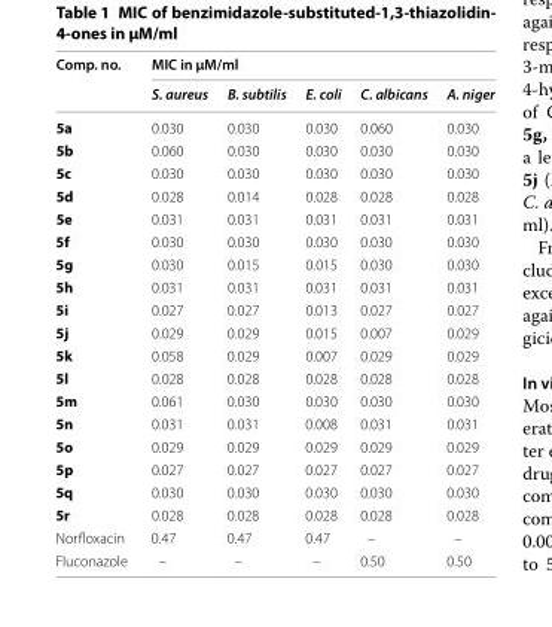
<table><thead><tr><td rowspan="2">Comp. no.</td><td colspan="5">MIC in µM/ml</td></tr><tr><td>S. aureus</td><td>B. subtilis</td><td>E. coli</td><td>C. albicans</td><td>A. niger</td></tr></thead><tbody><tr><td>5a</td><td>0.030</td><td>0.030</td><td>0.030</td><td>0.060</td><td>0.030</td></tr><tr><td>5b</td><td>0.060</td><td>0.030</td><td>0.030</td><td>0.030</td><td>0.030</td></tr><tr><td>5c</td><td>0.030</td><td>0.030</td><td>0.030</td><td>0.030</td><td>0.030</td></tr><tr><td>5d</td><td>0.028</td><td>0.014</td><td>0.028</td><td>0.028</td><td>0.028</td></tr><tr><td>5e</td><td>0.031</td><td>0.031</td><td>0.031</td><td>0.031</td><td>0.031</td></tr><tr><td>5f</td><td>0.030</td><td>0.030</td><td>0.030</td><td>0.030</td><td>0.030</td></tr><tr><td>5g</td><td>0.030</td><td>0.015</td><td>0.015</td><td>0.030</td><td>0.030</td></tr><tr><td>5h</td><td>0.031</td><td>0.031</td><td>0.031</td><td>0.031</td><td>0.031</td></tr><tr><td>5i</td><td>0.027</td><td>0.027</td><td>0.013</td><td>0.027</td><td>0.027</td></tr><tr><td>5j</td><td>0.029</td><td>0.029</td><td>0.015</td><td>0.007</td><td>0.029</td></tr><tr><td>5k</td><td>0.058</td><td>0.029</td><td>0.007</td><td>0.029</td><td>0.029</td></tr><tr><td>5l</td><td>0.028</td><td>0.028</td><td>0.028</td><td>0.028</td><td>0.028</td></tr><tr><td>5m</td><td>0.061</td><td>0.030</td><td>0.030</td><td>0.030</td><td>0.030</td></tr><tr><td>5n</td><td>0.031</td><td>0.031</td><td>0.008</td><td>0.031</td><td>0.031</td></tr><tr><td>5o</td><td>0.029</td><td>0.029</td><td>0.029</td><td>0.029</td><td>0.029</td></tr><tr><td>5p</td><td>0.027</td><td>0.027</td><td>0.027</td><td>0.027</td><td>0.027</td></tr><tr><td>5q</td><td>0.030</td><td>0.030</td><td>0.030</td><td>0.030</td><td>0.030</td></tr><tr><td>5r</td><td>0.028</td><td>0.028</td><td>0.028</td><td>0.028</td><td>0.028</td></tr><tr><td>Norfloxacin</td><td>0.47</td><td>0.47</td><td>0.47</td><td>–</td><td>–</td></tr><tr><td>Fluconazole</td><td>–</td><td>–</td><td>–</td><td>0.50</td><td>0.50</td></tr></tbody></table>